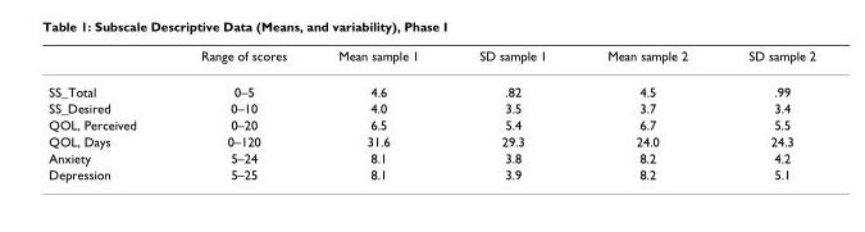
<table><thead><tr><td></td><td>Range of scores</td><td>Mean sample 1</td><td>SD sample 1</td><td>Mean sample 2</td><td>SD sample 2</td></tr></thead><tbody><tr><td>SS_Total</td><td>0–5</td><td>4.6</td><td>.82</td><td>4.5</td><td>.99</td></tr><tr><td>SS_Desired</td><td>0–10</td><td>4.0</td><td>3.5</td><td>3.7</td><td>3.4</td></tr><tr><td>QOL, Perceived</td><td>0–20</td><td>6.5</td><td>5.4</td><td>6.7</td><td>5.5</td></tr><tr><td>QOL, Days</td><td>0–120</td><td>31.6</td><td>29.3</td><td>24.0</td><td>24.3</td></tr><tr><td>Anxiety</td><td>5–24</td><td>8.1</td><td>3.8</td><td>8.2</td><td>4.2</td></tr><tr><td>Depression</td><td>5–25</td><td>8.1</td><td>3.9</td><td>8.2</td><td>5.1</td></tr></tbody></table>